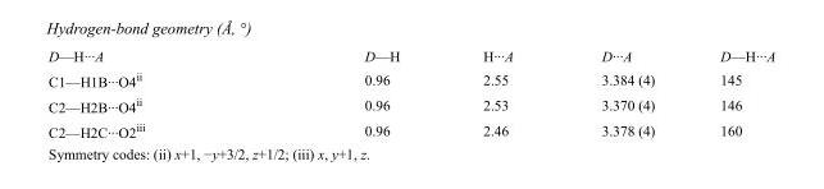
<table><tbody><tr><td>D—H···A</td><td>D—H</td><td>H···A</td><td>D···A</td><td>D—H···A</td></tr><tr><td>C1—H1B···O4<sup>ii</sup></td><td>0.96</td><td>2.55</td><td>3.384 (4)</td><td>145</td></tr><tr><td>C2—H2B···O4<sup>ii</sup></td><td>0.96</td><td>2.53</td><td>3.370 (4)</td><td>146</td></tr><tr><td>C2—H2C···O2<sup>iii</sup></td><td>0.96</td><td>2.46</td><td>3.378 (4)</td><td>160</td></tr></tbody></table>